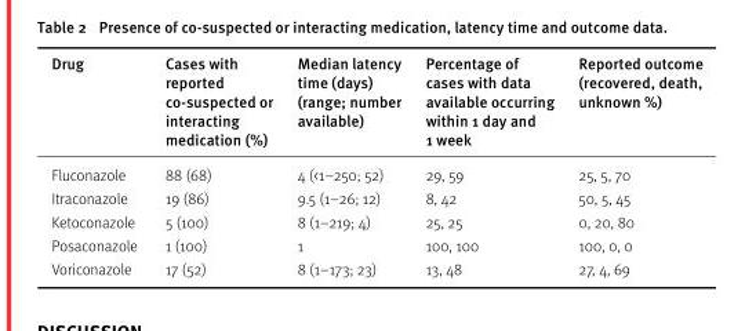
<table><thead><tr><td>Drug</td><td>Cases with reported co-suspected or interacting medication (%)</td><td>Median latency time (days) (range; number available)</td><td>Percentage of cases with data available occurring within 1 day and 1 week</td><td>Reported outcome (recovered, death, unknown %)</td></tr></thead><tbody><tr><td>Fluconazole</td><td>88 (68)</td><td>4 (&lt;1–250; 52)</td><td>29, 59</td><td>25, 5, 70</td></tr><tr><td>Itraconazole</td><td>19 (86)</td><td>9.5 (1–26; 12)</td><td>8, 42</td><td>50, 5, 45</td></tr><tr><td>Ketoconazole</td><td>5 (100)</td><td>8 (1–219; 4)</td><td>25, 25</td><td>0, 20, 80</td></tr><tr><td>Posaconazole</td><td>1 (100)</td><td>1</td><td>100, 100</td><td>100, 0, 0</td></tr><tr><td>Voriconazole</td><td>17 (52)</td><td>8 (1–173; 23)</td><td>13, 48</td><td>27, 4, 69</td></tr></tbody></table>